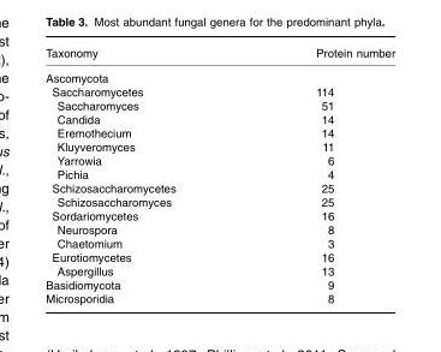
<table><thead><tr><td>Taxonomy</td><td>Protein number</td></tr></thead><tbody><tr><td colspan="2">Ascomycota</td></tr><tr><td>Saccharomycetes</td><td>114</td></tr><tr><td>Saccharomyces</td><td>51</td></tr><tr><td>Candida</td><td>14</td></tr><tr><td>Eremothecium</td><td>14</td></tr><tr><td>Kluyveromyces</td><td>11</td></tr><tr><td>Yarrowia</td><td>6</td></tr><tr><td>Pichia</td><td>4</td></tr><tr><td>Schizosaccharomycetes</td><td>25</td></tr><tr><td>Schizosaccharomyces</td><td>25</td></tr><tr><td>Sordariomycetes</td><td>16</td></tr><tr><td>Neurospora</td><td>8</td></tr><tr><td>Chaetomium</td><td>3</td></tr><tr><td>Eurotiomycetes</td><td>16</td></tr><tr><td>Aspergillus</td><td>13</td></tr><tr><td>Basidiomycota</td><td>9</td></tr><tr><td>Microsporidia</td><td>8</td></tr></tbody></table>